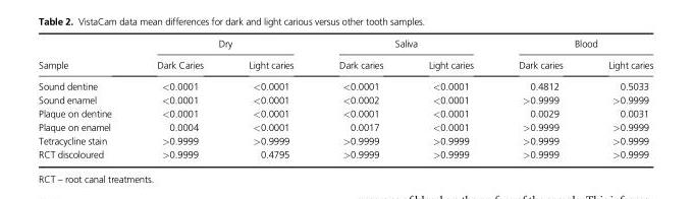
<table><thead><tr><td rowspan="2">Sample</td><td colspan="2">Dry</td><td colspan="2">Saliva</td><td colspan="2">Blood</td></tr><tr><td>Dark Caries</td><td>Light caries</td><td>Dark caries</td><td>Light caries</td><td>Dark caries</td><td>Light caries</td></tr></thead><tbody><tr><td>Sound dentine</td><td>&lt;0.0001</td><td>&lt;0.0001</td><td>&lt;0.0001</td><td>&lt;0.0001</td><td>0.4812</td><td>0.5033</td></tr><tr><td>Sound enamel</td><td>&lt;0.0001</td><td>&lt;0.0001</td><td>&lt;0.0002</td><td>&lt;0.0001</td><td>&gt;0.9999</td><td>&gt;0.9999</td></tr><tr><td>Plaque on dentine</td><td>&lt;0.0001</td><td>&lt;0.0001</td><td>&lt;0.0001</td><td>&lt;0.0001</td><td>0.0029</td><td>0.0031</td></tr><tr><td>Plaque on enamel</td><td>0.0004</td><td>&lt;0.0001</td><td>0.0017</td><td>&lt;0.0001</td><td>&gt;0.9999</td><td>&gt;0.9999</td></tr><tr><td>Tetracycline stain</td><td>&gt;0.9999</td><td>&gt;0.9999</td><td>&gt;0.9999</td><td>&gt;0.9999</td><td>&gt;0.9999</td><td>&gt;0.9999</td></tr><tr><td>RCT discoloured</td><td>&gt;0.9999</td><td>0.4795</td><td>&gt;0.9999</td><td>&gt;0.9999</td><td>&gt;0.9999</td><td>&gt;0.9999</td></tr></tbody></table>